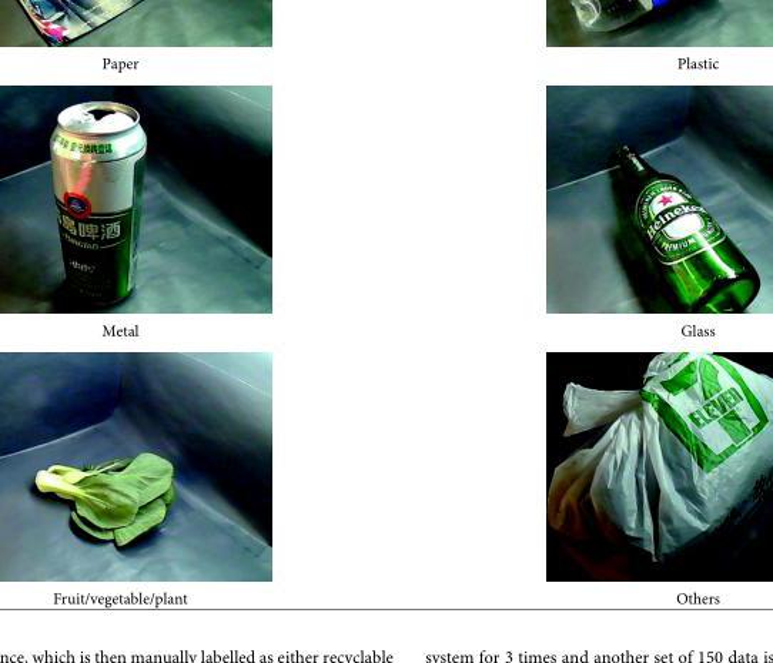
<table><tbody><tr><td>Paper</td><td>Plastic</td></tr><tr><td>Metal</td><td>Glass</td></tr><tr><td>Fruit/vegetable/plant</td><td>Others</td></tr></tbody></table>